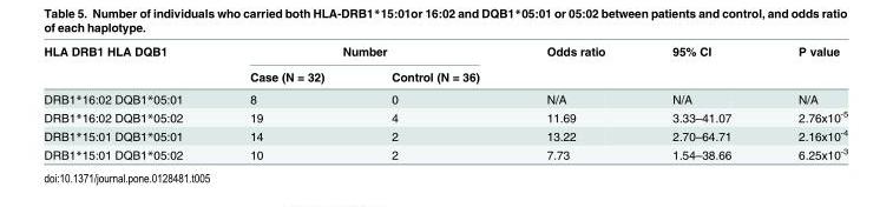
<table><thead><tr><td rowspan="2">HLA DRB1 HLA DQB1</td><td colspan="2">Number</td><td rowspan="2">Odds ratio</td><td rowspan="2">95% CI</td><td rowspan="2">P value</td></tr><tr><td>Case (N = 32)</td><td>Control (N = 36)</td></tr></thead><tbody><tr><td>DRB1*16:02 DQB1*05:01</td><td>8</td><td>0</td><td>N/A</td><td>N/A</td><td>N/A</td></tr><tr><td>DRB1*16:02 DQB1*05:02</td><td>19</td><td>4</td><td>11.69</td><td>3.33–41.07</td><td>2.76x10<sup>-5</sup></td></tr><tr><td>DRB1*15:01 DQB1*05:01</td><td>14</td><td>2</td><td>13.22</td><td>2.70–64.71</td><td>2.16x10<sup>-4</sup></td></tr><tr><td>DRB1*15:01 DQB1*05:02</td><td>10</td><td>2</td><td>7.73</td><td>1.54–38.66</td><td>6.25x10<sup>-3</sup></td></tr></tbody></table>